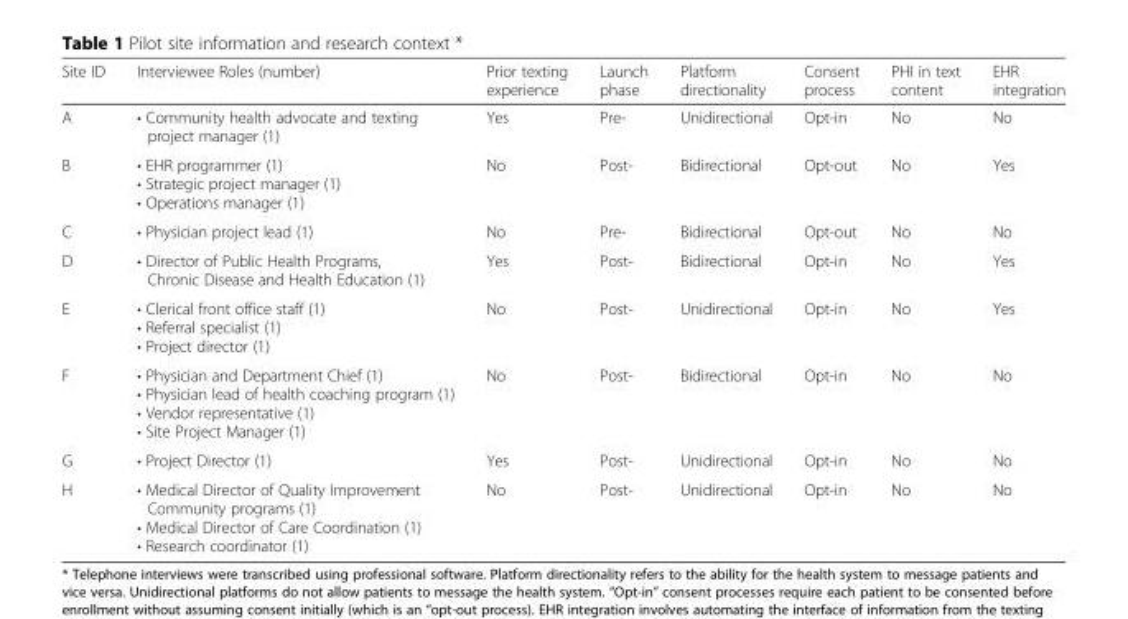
<table><thead><tr><td>Site ID</td><td>Interviewee Roles (number)</td><td>Prior texting experience</td><td>Launch phase</td><td>Platform directionality</td><td>Consent process</td><td>PHI in text content</td><td>EHR integration</td></tr></thead><tbody><tr><td>A</td><td>• Community health advocate and texting project manager (1)</td><td>Yes</td><td>Pre-</td><td>Unidirectional</td><td>Opt-in</td><td>No</td><td>No</td></tr><tr><td>B</td><td>• EHR programmer (1) • Strategic project manager (1) • Operations manager (1)</td><td>No</td><td>Post-</td><td>Bidirectional</td><td>Opt-out</td><td>No</td><td>Yes</td></tr><tr><td>C</td><td>• Physician project lead (1)</td><td>No</td><td>Pre-</td><td>Bidirectional</td><td>Opt-out</td><td>No</td><td>No</td></tr><tr><td>D</td><td>• Director of Public Health Programs, Chronic Disease and Health Education (1)</td><td>Yes</td><td>Post-</td><td>Bidirectional</td><td>Opt-in</td><td>No</td><td>Yes</td></tr><tr><td>E</td><td>• Clerical front office staff (1) • Referral specialist (1) • Project director (1)</td><td>No</td><td>Post-</td><td>Unidirectional</td><td>Opt-in</td><td>No</td><td>Yes</td></tr><tr><td>F</td><td>• Physician and Department Chief (1) • Physician lead of health coaching program (1) • Vendor representative (1) • Site Project Manager (1)</td><td>No</td><td>Post-</td><td>Bidirectional</td><td>Opt-in</td><td>No</td><td>No</td></tr><tr><td>G</td><td>• Project Director (1)</td><td>Yes</td><td>Post-</td><td>Unidirectional</td><td>Opt-in</td><td>No</td><td>No</td></tr><tr><td>H</td><td>• Medical Director of Quality Improvement Community programs (1) • Medical Director of Care Coordination (1) • Research coordinator (1)</td><td>No</td><td>Post-</td><td>Unidirectional</td><td>Opt-in</td><td>No</td><td>No</td></tr></tbody></table>